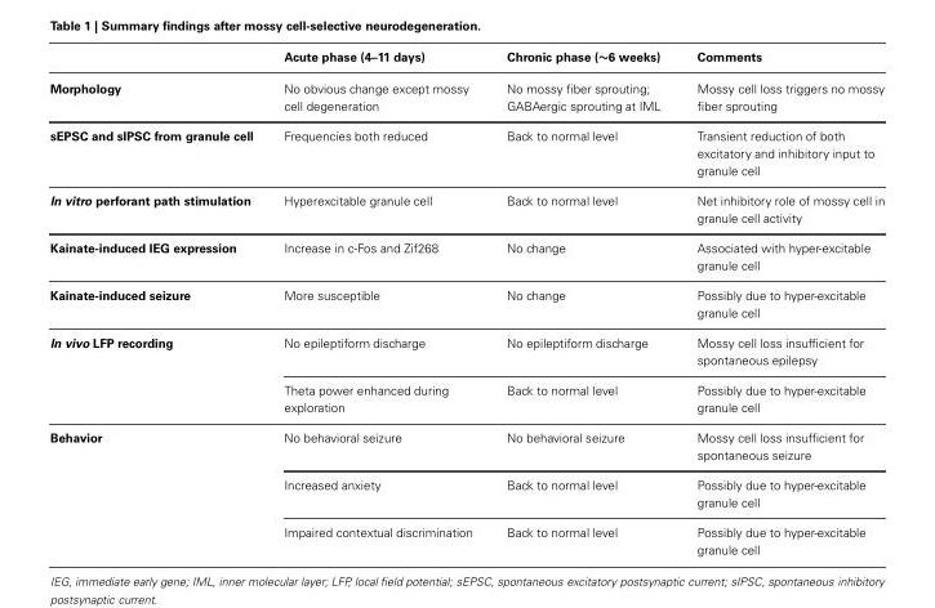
<table><thead><tr><td></td><td>Acute phase (4–11 days)</td><td>Chronic phase (∼6 weeks)</td><td>Comments</td></tr></thead><tbody><tr><td>Morphology</td><td>No obvious change except mossy cell degeneration</td><td>No mossy fiber sprouting; GABAergic sprouting at IML</td><td>Mossy cell loss triggers no mossy fiber sprouting</td></tr><tr><td>sEPSC and sIPSC from granule cell</td><td>Frequencies both reduced</td><td>Back to normal level</td><td>Transient reduction of both excitatory and inhibitory input to granule cell</td></tr><tr><td>In vitro perforant path stimulation</td><td>Hyperexcitable granule cell</td><td>Back to normal level</td><td>Net inhibitory role of mossy cell in granule cell activity</td></tr><tr><td>Kainate-induced IEG expression</td><td>Increase in c-Fos and Zif268</td><td>No change</td><td>Associated with hyper-excitable granule cell</td></tr><tr><td>Kainate-induced seizure</td><td>More susceptible</td><td>No change</td><td>Possibly due to hyper-excitable granule cell</td></tr><tr><td rowspan="2">In vivo LFP recording</td><td>No epileptiform discharge</td><td>No epileptiform discharge</td><td>Mossy cell loss insufficient for spontaneous epilepsy</td></tr><tr><td>Theta power enhanced during exploration</td><td>Back to normal level</td><td>Possibly due to hyper-excitable granule cell</td></tr><tr><td rowspan="3">Behavior</td><td>No behavioral seizure</td><td>No behavioral seizure</td><td>Mossy cell loss insufficient for spontaneous seizure</td></tr><tr><td>Increased anxiety</td><td>Back to normal level</td><td>Possibly due to hyper-excitable granule cell</td></tr><tr><td>Impaired contextual discrimination</td><td>Back to normal level</td><td>Possibly due to hyper-excitable granule cell</td></tr></tbody></table>